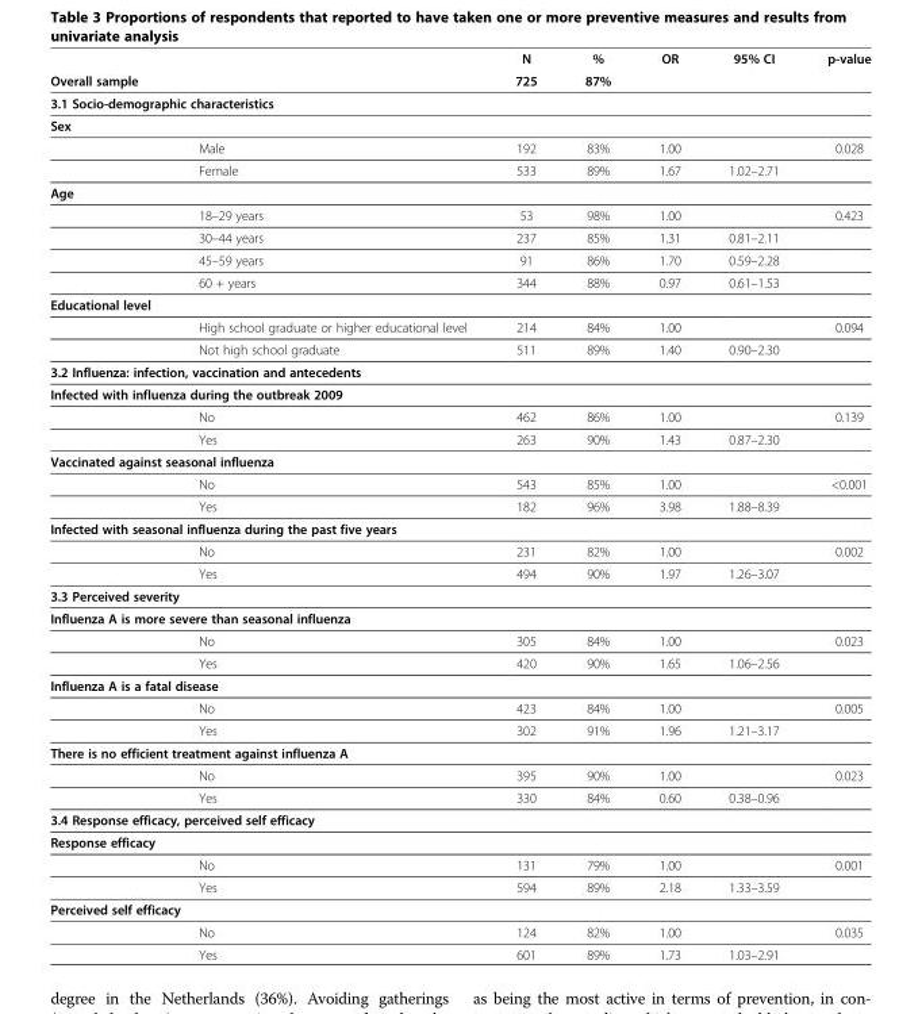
<table><thead><tr><td rowspan="2">Overall sample</td><td rowspan="2"></td><td rowspan="2">N 725</td><td rowspan="2">% 87%</td><td rowspan="2">OR</td><td rowspan="2">95% CI</td><td rowspan="2">p-value</td></tr><tr></tr></thead><tbody><tr><td colspan="7">3.1 Socio-demographic characteristics</td></tr><tr><td colspan="7">Sex</td></tr><tr><td></td><td>Male</td><td>192</td><td>83%</td><td>1.00</td><td></td><td>0.028</td></tr><tr><td></td><td>Female</td><td>533</td><td>89%</td><td>1.67</td><td>1.02–2.71</td><td></td></tr><tr><td colspan="7">Age</td></tr><tr><td></td><td>18–29 years</td><td>53</td><td>98%</td><td>1.00</td><td></td><td>0.423</td></tr><tr><td></td><td>30–44 years</td><td>237</td><td>85%</td><td>1.31</td><td>0.81–2.11</td><td></td></tr><tr><td></td><td>45–59 years</td><td>91</td><td>86%</td><td>1.70</td><td>0.59–2.28</td><td></td></tr><tr><td></td><td>60 + years</td><td>344</td><td>88%</td><td>0.97</td><td>0.61–1.53</td><td></td></tr><tr><td colspan="7">Educational level</td></tr><tr><td></td><td>High school graduate or higher educational level</td><td>214</td><td>84%</td><td>1.00</td><td></td><td>0.094</td></tr><tr><td></td><td>Not high school graduate</td><td>511</td><td>89%</td><td>1.40</td><td>0.90–2.30</td><td></td></tr><tr><td colspan="7">3.2 Influenza: infection, vaccination and antecedents</td></tr><tr><td colspan="7">Infected with influenza during the outbreak 2009</td></tr><tr><td></td><td>No</td><td>462</td><td>86%</td><td>1.00</td><td></td><td>0.139</td></tr><tr><td></td><td>Yes</td><td>263</td><td>90%</td><td>1.43</td><td>0.87–2.30</td><td></td></tr><tr><td colspan="7">Vaccinated against seasonal influenza</td></tr><tr><td></td><td>No</td><td>543</td><td>85%</td><td>1.00</td><td></td><td>&lt;0.001</td></tr><tr><td></td><td>Yes</td><td>182</td><td>96%</td><td>3.98</td><td>1.88–8.39</td><td></td></tr><tr><td colspan="7">Infected with seasonal influenza during the past five years</td></tr><tr><td></td><td>No</td><td>231</td><td>82%</td><td>1.00</td><td></td><td>0.002</td></tr><tr><td></td><td>Yes</td><td>494</td><td>90%</td><td>1.97</td><td>1.26–3.07</td><td></td></tr><tr><td colspan="7">3.3 Perceived severity</td></tr><tr><td colspan="7">Influenza A is more severe than seasonal influenza</td></tr><tr><td></td><td>No</td><td>305</td><td>84%</td><td>1.00</td><td></td><td>0.023</td></tr><tr><td></td><td>Yes</td><td>420</td><td>90%</td><td>1.65</td><td>1.06–2.56</td><td></td></tr><tr><td colspan="7">Influenza A is a fatal disease</td></tr><tr><td></td><td>No</td><td>423</td><td>84%</td><td>1.00</td><td></td><td>0.005</td></tr><tr><td></td><td>Yes</td><td>302</td><td>91%</td><td>1.96</td><td>1.21–3.17</td><td></td></tr><tr><td colspan="7">There is no efficient treatment against influenza A</td></tr><tr><td></td><td>No</td><td>395</td><td>90%</td><td>1.00</td><td></td><td>0.023</td></tr><tr><td></td><td>Yes</td><td>330</td><td>84%</td><td>0.60</td><td>0.38–0.96</td><td></td></tr><tr><td colspan="7">3.4 Response efficacy, perceived self efficacy</td></tr><tr><td colspan="7">Response efficacy</td></tr><tr><td></td><td>No</td><td>131</td><td>79%</td><td>1.00</td><td></td><td>0.001</td></tr><tr><td></td><td>Yes</td><td>594</td><td>89%</td><td>2.18</td><td>1.33–3.59</td><td></td></tr><tr><td colspan="7">Perceived self efficacy</td></tr><tr><td></td><td>No</td><td>124</td><td>82%</td><td>1.00</td><td></td><td>0.035</td></tr><tr><td></td><td>Yes</td><td>601</td><td>89%</td><td>1.73</td><td>1.03–2.91</td><td></td></tr></tbody></table>